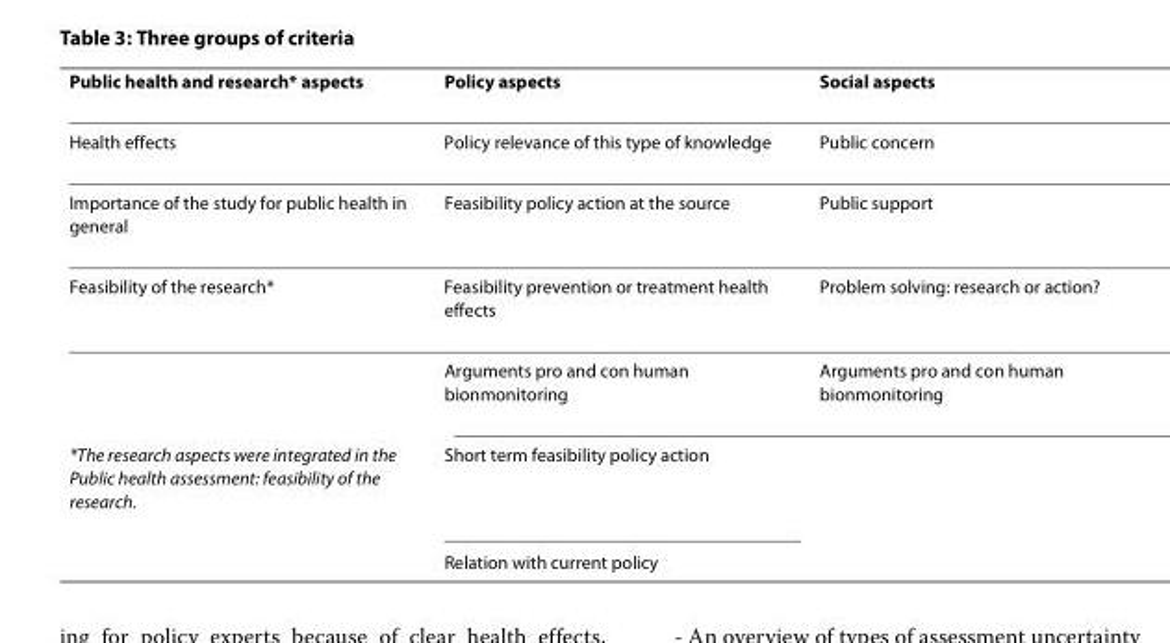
<table><thead><tr><td>Public health and research* aspects</td><td>Policy aspects</td><td>Social aspects</td></tr></thead><tbody><tr><td>Health effects</td><td>Policy relevance of this type of knowledge</td><td>Public concern</td></tr><tr><td>Importance of the study for public health in general</td><td>Feasibility policy action at the source</td><td>Public support</td></tr><tr><td rowspan="2">Feasibility of the research*</td><td>Feasibility prevention or treatment health effects</td><td>Problem solving: research or action?</td></tr><tr><td>Arguments pro and con human bionmonitoring</td><td>Arguments pro and con human bionmonitoring</td></tr><tr><td rowspan="2">*The research aspects were integrated in the Public health assessment: feasibility of the research.</td><td>Short term feasibility policy action</td><td></td></tr><tr><td>Relation with current policy</td><td></td></tr></tbody></table>